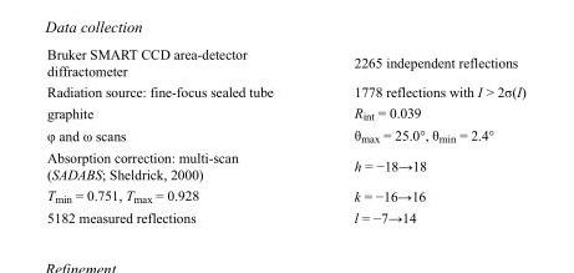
<table><tbody><tr><td>Bruker SMART CCD area-detector diffractometer</td><td>2265 independent reflections</td></tr><tr><td>Radiation source: fine-focus sealed tube</td><td>1778 reflections with I &gt; 2σ(I)</td></tr><tr><td>graphite</td><td>R<sub>int</sub> = 0.039</td></tr><tr><td>φ and ω scans</td><td>θ<sub>max</sub> = 25.0°, θ<sub>min</sub> = 2.4°</td></tr><tr><td>Absorption correction: multi-scan (SADABS; Sheldrick, 2000)</td><td>h = −18→18</td></tr><tr><td>T<sub>min</sub> = 0.751, T<sub>max</sub> = 0.928</td><td>k = −16→16</td></tr><tr><td>5182 measured reflections</td><td>l = −7→14</td></tr></tbody></table>